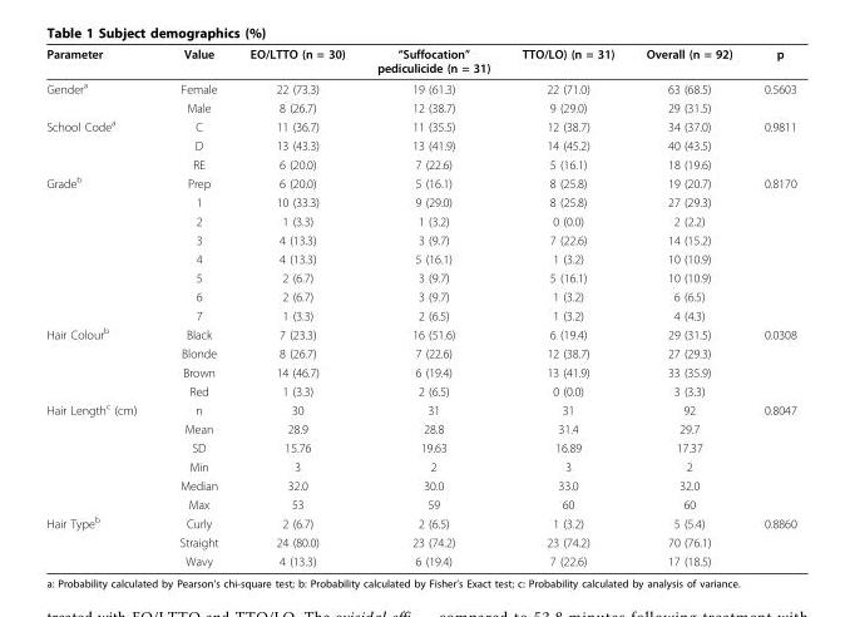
<table><thead><tr><td>Parameter</td><td>Value</td><td>EO/LTTO (n = 30)</td><td>“Suffocation” pediculicide (n = 31)</td><td>TTO/LO) (n = 31)</td><td>Overall (n = 92)</td><td>p</td></tr></thead><tbody><tr><td rowspan="2">Gender<sup>a</sup></td><td>Female</td><td>22 (73.3)</td><td>19 (61.3)</td><td>22 (71.0)</td><td>63 (68.5)</td><td>0.5603</td></tr><tr><td>Male</td><td>8 (26.7)</td><td>12 (38.7)</td><td>9 (29.0)</td><td>29 (31.5)</td><td></td></tr><tr><td rowspan="3">School Code<sup>a</sup></td><td>C</td><td>11 (36.7)</td><td>11 (35.5)</td><td>12 (38.7)</td><td>34 (37.0)</td><td>0.9811</td></tr><tr><td>D</td><td>13 (43.3)</td><td>13 (41.9)</td><td>14 (45.2)</td><td>40 (43.5)</td><td></td></tr><tr><td>RE</td><td>6 (20.0)</td><td>7 (22.6)</td><td>5 (16.1)</td><td>18 (19.6)</td><td></td></tr><tr><td rowspan="8">Grade<sup>b</sup></td><td>Prep</td><td>6 (20.0)</td><td>5 (16.1)</td><td>8 (25.8)</td><td>19 (20.7)</td><td>0.8170</td></tr><tr><td>1</td><td>10 (33.3)</td><td>9 (29.0)</td><td>8 (25.8)</td><td>27 (29.3)</td><td></td></tr><tr><td>2</td><td>1 (3.3)</td><td>1 (3.2)</td><td>0 (0.0)</td><td>2 (2.2)</td><td></td></tr><tr><td>3</td><td>4 (13.3)</td><td>3 (9.7)</td><td>7 (22.6)</td><td>14 (15.2)</td><td></td></tr><tr><td>4</td><td>4 (13.3)</td><td>5 (16.1)</td><td>1 (3.2)</td><td>10 (10.9)</td><td></td></tr><tr><td>5</td><td>2 (6.7)</td><td>3 (9.7)</td><td>5 (16.1)</td><td>10 (10.9)</td><td></td></tr><tr><td>6</td><td>2 (6.7)</td><td>3 (9.7)</td><td>1 (3.2)</td><td>6 (6.5)</td><td></td></tr><tr><td>7</td><td>1 (3.3)</td><td>2 (6.5)</td><td>1 (3.2)</td><td>4 (4.3)</td><td></td></tr><tr><td rowspan="4">Hair Colour<sup>b</sup></td><td>Black</td><td>7 (23.3)</td><td>16 (51.6)</td><td>6 (19.4)</td><td>29 (31.5)</td><td>0.0308</td></tr><tr><td>Blonde</td><td>8 (26.7)</td><td>7 (22.6)</td><td>12 (38.7)</td><td>27 (29.3)</td><td></td></tr><tr><td>Brown</td><td>14 (46.7)</td><td>6 (19.4)</td><td>13 (41.9)</td><td>33 (35.9)</td><td></td></tr><tr><td>Red</td><td>1 (3.3)</td><td>2 (6.5)</td><td>0 (0.0)</td><td>3 (3.3)</td><td></td></tr><tr><td rowspan="6">Hair Length<sup>c</sup> (cm)</td><td>n</td><td>30</td><td>31</td><td>31</td><td>92</td><td>0.8047</td></tr><tr><td>Mean</td><td>28.9</td><td>28.8</td><td>31.4</td><td>29.7</td><td></td></tr><tr><td>SD</td><td>15.76</td><td>19.63</td><td>16.89</td><td>17.37</td><td></td></tr><tr><td>Min</td><td>3</td><td>2</td><td>3</td><td>2</td><td></td></tr><tr><td>Median</td><td>32.0</td><td>30.0</td><td>33.0</td><td>32.0</td><td></td></tr><tr><td>Max</td><td>53</td><td>59</td><td>60</td><td>60</td><td></td></tr><tr><td rowspan="3">Hair Type<sup>b</sup></td><td>Curly</td><td>2 (6.7)</td><td>2 (6.5)</td><td>1 (3.2)</td><td>5 (5.4)</td><td>0.8860</td></tr><tr><td>Straight</td><td>24 (80.0)</td><td>23 (74.2)</td><td>23 (74.2)</td><td>70 (76.1)</td><td></td></tr><tr><td>Wavy</td><td>4 (13.3)</td><td>6 (19.4)</td><td>7 (22.6)</td><td>17 (18.5)</td><td></td></tr></tbody></table>